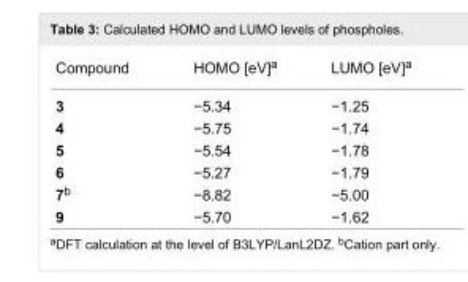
<table><tbody><tr><td>Compound</td><td>HOMO [eV]<sup>a</sup></td><td>LUMO [eV]<sup>a</sup></td></tr><tr><td>3</td><td>−5.34</td><td>−1.25</td></tr><tr><td>4</td><td>−5.75</td><td>−1.74</td></tr><tr><td>5</td><td>−5.54</td><td>−1.78</td></tr><tr><td>6</td><td>−5.27</td><td>−1.79</td></tr><tr><td>7<sup>b</sup></td><td>−8.82</td><td>−5.00</td></tr><tr><td>9</td><td>−5.70</td><td>−1.62</td></tr></tbody></table>